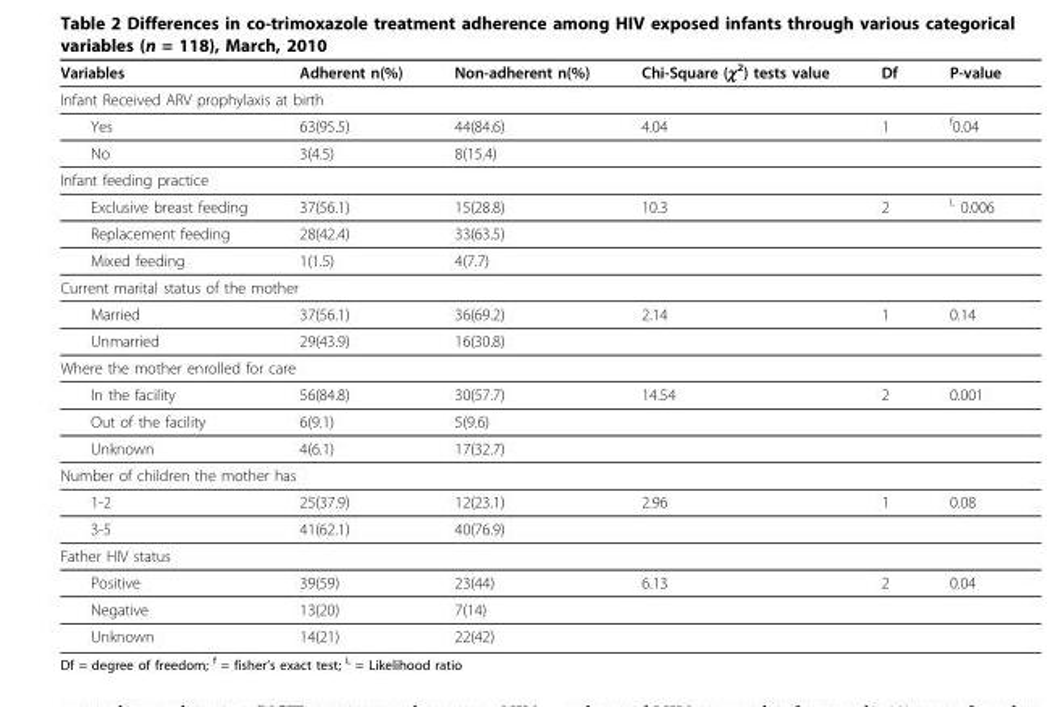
<table><thead><tr><td>Variables</td><td>Adherent n(%)</td><td>Non-adherent n(%)</td><td>Chi-Square (χ<sup>2</sup>) tests value</td><td>Df</td><td>P-value</td></tr></thead><tbody><tr><td colspan="6">Infant Received ARV prophylaxis at birth</td></tr><tr><td>Yes</td><td>63(95.5)</td><td>44(84.6)</td><td>4.04</td><td>1</td><td><sup>f</sup>0.04</td></tr><tr><td>No</td><td>3(4.5)</td><td>8(15.4)</td><td></td><td></td><td></td></tr><tr><td colspan="6">Infant feeding practice</td></tr><tr><td>Exclusive breast feeding</td><td>37(56.1)</td><td>15(28.8)</td><td>10.3</td><td>2</td><td><sup>L</sup> 0.006</td></tr><tr><td>Replacement feeding</td><td>28(42.4)</td><td>33(63.5)</td><td></td><td></td><td></td></tr><tr><td>Mixed feeding</td><td>1(1.5)</td><td>4(7.7)</td><td></td><td></td><td></td></tr><tr><td colspan="6">Current marital status of the mother</td></tr><tr><td>Married</td><td>37(56.1)</td><td>36(69.2)</td><td>2.14</td><td>1</td><td>0.14</td></tr><tr><td>Unmarried</td><td>29(43.9)</td><td>16(30.8)</td><td></td><td></td><td></td></tr><tr><td colspan="6">Where the mother enrolled for care</td></tr><tr><td>In the facility</td><td>56(84.8)</td><td>30(57.7)</td><td>14.54</td><td>2</td><td>0.001</td></tr><tr><td>Out of the facility</td><td>6(9.1)</td><td>5(9.6)</td><td></td><td></td><td></td></tr><tr><td>Unknown</td><td>4(6.1)</td><td>17(32.7)</td><td></td><td></td><td></td></tr><tr><td colspan="6">Number of children the mother has</td></tr><tr><td>1-2</td><td>25(37.9)</td><td>12(23.1)</td><td>2.96</td><td>1</td><td>0.08</td></tr><tr><td>3-5</td><td>41(62.1)</td><td>40(76.9)</td><td></td><td></td><td></td></tr><tr><td colspan="6">Father HIV status</td></tr><tr><td>Positive</td><td>39(59)</td><td>23(44)</td><td>6.13</td><td>2</td><td>0.04</td></tr><tr><td>Negative</td><td>13(20)</td><td>7(14)</td><td></td><td></td><td></td></tr><tr><td>Unknown</td><td>14(21)</td><td>22(42)</td><td></td><td></td><td></td></tr></tbody></table>